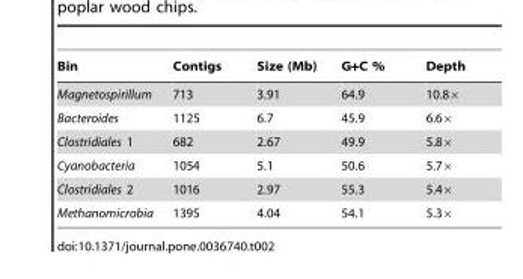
<table><thead><tr><td>Bin</td><td>Contigs</td><td>Size (Mb)</td><td>G+C %</td><td>Depth</td></tr></thead><tbody><tr><td>Magnetospirillum</td><td>713</td><td>3.91</td><td>64.9</td><td>10.8×</td></tr><tr><td>Bacteroides</td><td>1125</td><td>6.7</td><td>45.9</td><td>6.6×</td></tr><tr><td>Clostridiales 1</td><td>682</td><td>2.67</td><td>49.9</td><td>5.8×</td></tr><tr><td>Cyanobacteria</td><td>1054</td><td>5.1</td><td>50.6</td><td>5.7×</td></tr><tr><td>Clostridiales 2</td><td>1016</td><td>2.97</td><td>55.3</td><td>5.4×</td></tr><tr><td>Methanomicrobia</td><td>1395</td><td>4.04</td><td>54.1</td><td>5.3×</td></tr></tbody></table>